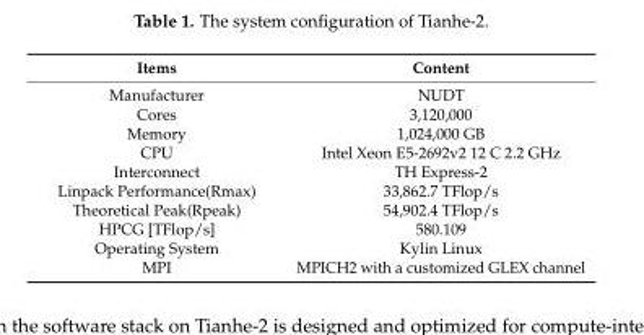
<table><thead><tr><td>Items</td><td>Content</td></tr></thead><tbody><tr><td>Manufacturer</td><td>NUDT</td></tr><tr><td>Cores</td><td>3,120,000</td></tr><tr><td>Memory</td><td>1,024,000 GB</td></tr><tr><td>CPU</td><td>Intel Xeon E5-2692v2 12 C 2.2 GHz</td></tr><tr><td>Interconnect</td><td>TH Express-2</td></tr><tr><td>Linpack Performance(Rmax)</td><td>33,862.7 TFlop/s</td></tr><tr><td>Theoretical Peak(Rpeak)</td><td>54,902.4 TFlop/s</td></tr><tr><td>HPCG [TFlop/s]</td><td>580.109</td></tr><tr><td>Operating System</td><td>Kylin Linux</td></tr><tr><td>MPI</td><td>MPICH2 with a customized GLEX channel</td></tr></tbody></table>